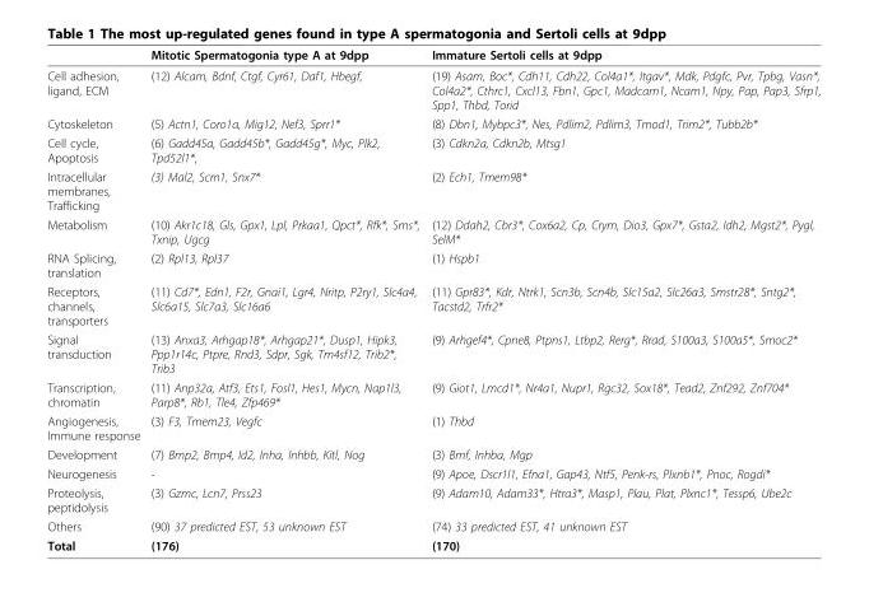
<table><thead><tr><td></td><td>Mitotic Spermatogonia type A at 9dpp</td><td>Immature Sertoli cells at 9dpp</td></tr></thead><tbody><tr><td>Cell adhesion, ligand, ECM</td><td>(12) Alcam, Bdnf, Ctgf, Cyr61, Daf1, Hbegf,</td><td>(19) Asam, Boc*, Cdh11, Cdh22, Col4a1*, Itgav*, Mdk, Pdgfc, Pvr, Tpbg, Vasn*, Col4a2*, Cthrc1, Cxcl13, Fbn1, Gpc1, Madcam1, Ncam1, Npy, Pap, Pap3, Sfrp1, Spp1, Thbd, Torid</td></tr><tr><td>Cytoskeleton</td><td>(5) Actn1, Coro1a, Mig12, Nef3, Sprr1*</td><td>(8) Dbn1, Mybpc3*, Nes, Pdlim2, Pdlim3, Tmod1, Trim2*, Tubb2b*</td></tr><tr><td>Cell cycle, Apoptosis</td><td>(6) Gadd45a, Gadd45b*, Gadd45g*, Myc, Plk2, Tpd52l1*,</td><td>(3) Cdkn2a, Cdkn2b, Mtsg1</td></tr><tr><td>Intracellular membranes, Trafficking</td><td>(3) Mal2, Scrn1, Snx7*</td><td>(2) Ech1, Tmem98*</td></tr><tr><td>Metabolism</td><td>(10) Akr1c18, Gls, Gpx1, Lpl, Prkaa1, Qpct*, Rfk*, Sms*, Txnip, Ugcg</td><td>(12) Ddah2, Cbr3*, Cox6a2, Cp, Crym, Dio3, Gpx7*, Gsta2, Idh2, Mgst2*, Pygl, SelM*</td></tr><tr><td>RNA Splicing, translation</td><td>(2) Rpl13, Rpl37</td><td>(1) Hspb1</td></tr><tr><td>Receptors, channels, transporters</td><td>(11) Cd7*, Edn1, F2r, Gnai1, Lgr4, Nritp, P2ry1, Slc4a4, Slc6a15, Slc7a3, Slc16a6</td><td>(11) Gpr83*, Kdr, Ntrk1, Scn3b, Scn4b, Slc15a2, Slc26a3, Smstr28*, Sntg2*, Tacstd2, Trfr2*</td></tr><tr><td>Signal transduction</td><td>(13) Anxa3, Arhgap18*, Arhgap21*, Dusp1, Hipk3, Ppp1r14c, Ptpre, Rnd3, Sdpr, Sgk, Tm4sf12, Trib2*, Trib3</td><td>(9) Arhgef4*, Cpne8, Ptpns1, Ltbp2, Rerg*, Rrad, S100a3, S100a5*, Smoc2*</td></tr><tr><td>Transcription, chromatin</td><td>(11) Anp32a, Atf3, Ets1, Fosl1, Hes1, Mycn, Nap1l3, Parp8*, Rb1, Tle4, Zfp469*</td><td>(9) Giot1, Lmcd1*, Nr4a1, Nupr1, Rgc32, Sox18*, Tead2, Znf292, Znf704*</td></tr><tr><td>Angiogenesis, Immune response</td><td>(3) F3, Tmem23, Vegfc</td><td>(1) Thbd</td></tr><tr><td>Development</td><td>(7) Bmp2, Bmp4, Id2, Inha, Inhbb, Kitl, Nog</td><td>(3) Bmf, Inhba, Mgp</td></tr><tr><td>Neurogenesis</td><td>-</td><td>(9) Apoe, Dscr1l1, Efna1, Gap43, Ntf5, Penk-rs, Plxnb1*, Pnoc, Rogdi*</td></tr><tr><td>Proteolysis, peptidolysis</td><td>(3) Gzmc, Lcn7, Prss23</td><td>(9) Adam10, Adam33*, Htra3*, Masp1, Plau, Plat, Plxnc1*, Tessp6, Ube2c</td></tr><tr><td>Others</td><td>(90) 37 predicted EST, 53 unknown EST</td><td>(74) 33 predicted EST, 41 unknown EST</td></tr><tr><td>Total</td><td>(176)</td><td>(170)</td></tr></tbody></table>